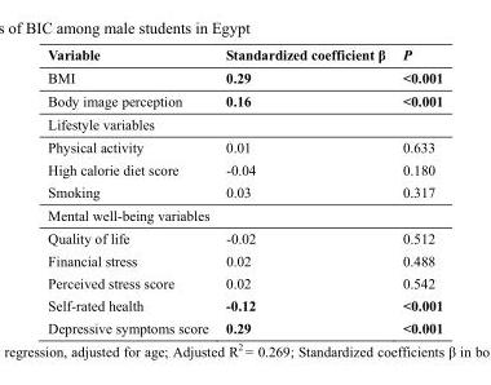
<table><thead><tr><td>Variable</td><td>Standardized coefficient β</td><td>P</td></tr></thead><tbody><tr><td>BMI</td><td>0.29</td><td>&lt;0.001</td></tr><tr><td>Body image perception</td><td>0.16</td><td>&lt;0.001</td></tr><tr><td colspan="3">Lifestyle variables</td></tr><tr><td>Physical activity</td><td>0.01</td><td>0.633</td></tr><tr><td>High calorie diet score</td><td>-0.04</td><td>0.180</td></tr><tr><td>Smoking</td><td>0.03</td><td>0.317</td></tr><tr><td colspan="3">Mental well-being variables</td></tr><tr><td>Quality of life</td><td>-0.02</td><td>0.512</td></tr><tr><td>Financial stress</td><td>0.02</td><td>0.488</td></tr><tr><td>Perceived stress score</td><td>0.02</td><td>0.542</td></tr><tr><td>Self-rated health</td><td>-0.12</td><td>&lt;0.001</td></tr><tr><td>Depressive symptoms score</td><td>0.29</td><td>&lt;0.001</td></tr></tbody></table>